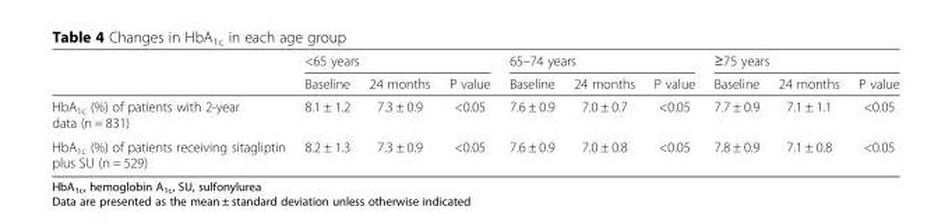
<table><thead><tr><td rowspan="2"></td><td colspan="3">&lt;65 years</td><td colspan="3">65–74 years</td><td colspan="3">≥75 years</td></tr><tr><td>Baseline</td><td>24 months</td><td>P value</td><td>Baseline</td><td>24 months</td><td>P value</td><td>Baseline</td><td>24 months</td><td>P value</td></tr></thead><tbody><tr><td>HbA<sub>1c</sub> (%) of patients with 2-year data (n = 831)</td><td>8.1 ± 1.2</td><td>7.3 ± 0.9</td><td>&lt;0.05</td><td>7.6 ± 0.9</td><td>7.0 ± 0.7</td><td>&lt;0.05</td><td>7.7 ± 0.9</td><td>7.1 ± 1.1</td><td>&lt;0.05</td></tr><tr><td>HbA<sub>1c</sub> (%) of patients receiving sitagliptin plus SU (n = 529)</td><td>8.2 ± 1.3</td><td>7.3 ± 0.9</td><td>&lt;0.05</td><td>7.6 ± 0.9</td><td>7.0 ± 0.8</td><td>&lt;0.05</td><td>7.8 ± 0.9</td><td>7.1 ± 0.8</td><td>&lt;0.05</td></tr></tbody></table>